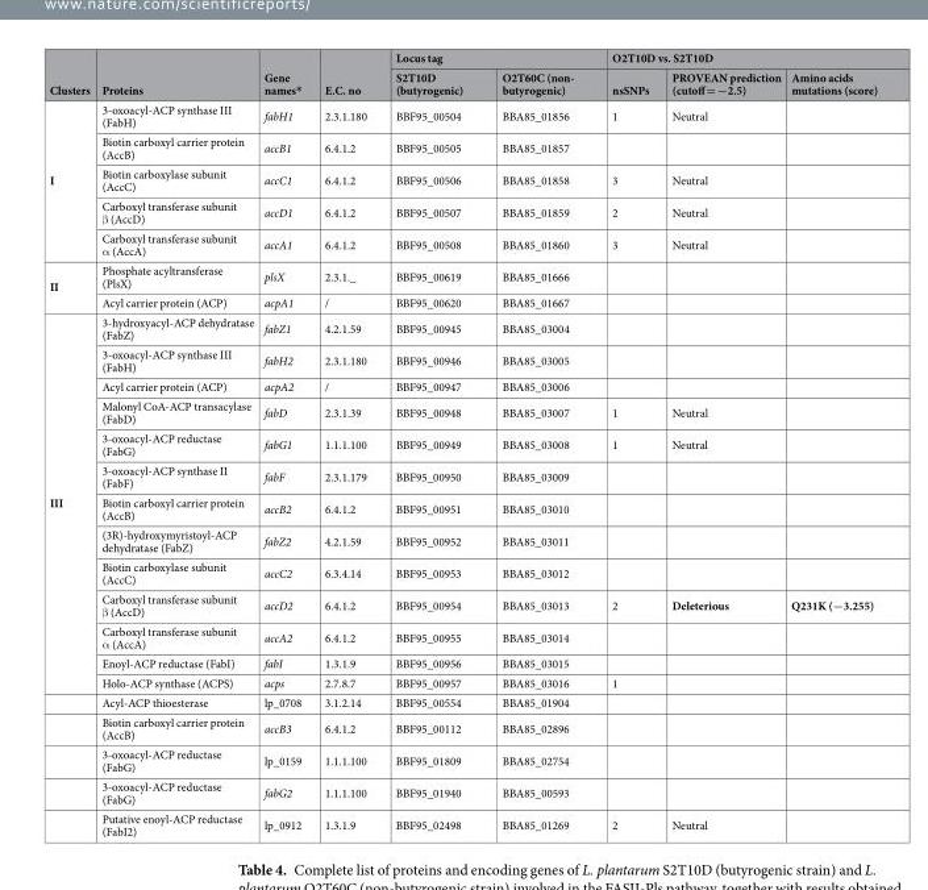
<table><thead><tr><td rowspan="2">Clusters</td><td rowspan="2">Proteins</td><td rowspan="2">Gene names*</td><td rowspan="2">E.C. no</td><td colspan="2">Locus tag</td><td colspan="3">O2T10D vs. S2T10D</td></tr><tr><td>S2T10D (butyrogenic)</td><td>O2T60C (non- butyrogenic)</td><td>nsSNPs</td><td>PROVEAN prediction (cutoff = −2.5)</td><td>Amino acids mutations (score)</td></tr></thead><tbody><tr><td rowspan="5">I</td><td>3-oxoacyl-ACP synthase III (FabH)</td><td>fabH1</td><td>2.3.1.180</td><td>BBF95_00504</td><td>BBA85_01856</td><td>1</td><td>Neutral</td><td></td></tr><tr><td>Biotin carboxyl carrier protein (AccB)</td><td>accB1</td><td>6.4.1.2</td><td>BBF95_00505</td><td>BBA85_01857</td><td></td><td></td><td></td></tr><tr><td>Biotin carboxylase subunit (AccC)</td><td>accC1</td><td>6.4.1.2</td><td>BBF95_00506</td><td>BBA85_01858</td><td>3</td><td>Neutral</td><td></td></tr><tr><td>Carboxyl transferase subunit β (AccD)</td><td>accD1</td><td>6.4.1.2</td><td>BBF95_00507</td><td>BBA85_01859</td><td>2</td><td>Neutral</td><td></td></tr><tr><td>Carboxyl transferase subunit α (AccA)</td><td>accA1</td><td>6.4.1.2</td><td>BBF95_00508</td><td>BBA85_01860</td><td>3</td><td>Neutral</td><td></td></tr><tr><td rowspan="2">II</td><td>Phosphate acyltransferase (PlsX)</td><td>plsX</td><td>2.3.1._</td><td>BBF95_00619</td><td>BBA85_01666</td><td></td><td></td><td></td></tr><tr><td>Acyl carrier protein (ACP)</td><td>acpA1</td><td>/</td><td>BBF95_00620</td><td>BBA85_01667</td><td></td><td></td><td></td></tr><tr><td rowspan="18">III</td><td>3-hydroxyacyl-ACP dehydratase (FabZ)</td><td>fabZ1</td><td>4.2.1.59</td><td>BBF95_00945</td><td>BBA85_03004</td><td></td><td></td><td></td></tr><tr><td>3-oxoacyl-ACP synthase III (FabH)</td><td>fabH2</td><td>2.3.1.180</td><td>BBF95_00946</td><td>BBA85_03005</td><td></td><td></td><td></td></tr><tr><td>Acyl carrier protein (ACP)</td><td>acpA2</td><td>/</td><td>BBF95_00947</td><td>BBA85_03006</td><td></td><td></td><td></td></tr><tr><td>Malonyl CoA-ACP transacylase (FabD)</td><td>fabD</td><td>2.3.1.39</td><td>BBF95_00948</td><td>BBA85_03007</td><td>1</td><td>Neutral</td><td></td></tr><tr><td>3-oxoacyl-ACP reductase (FabG)</td><td>fabG1</td><td>1.1.1.100</td><td>BBF95_00949</td><td>BBA85_03008</td><td>1</td><td>Neutral</td><td></td></tr><tr><td>3-oxoacyl-ACP synthase II (FabF)</td><td>fabF</td><td>2.3.1.179</td><td>BBF95_00950</td><td>BBA85_03009</td><td></td><td></td><td></td></tr><tr><td>Biotin carboxyl carrier protein (AccB)</td><td>accB2</td><td>6.4.1.2</td><td>BBF95_00951</td><td>BBA85_03010</td><td></td><td></td><td></td></tr><tr><td>(3R)-hydroxymyristoyl-ACP dehydratase (FabZ)</td><td>fabZ2</td><td>4.2.1.59</td><td>BBF95_00952</td><td>BBA85_03011</td><td></td><td></td><td></td></tr><tr><td>Biotin carboxylase subunit (AccC)</td><td>accC2</td><td>6.3.4.14</td><td>BBF95_00953</td><td>BBA85_03012</td><td></td><td></td><td></td></tr><tr><td>Carboxyl transferase subunit β (AccD)</td><td>accD2</td><td>6.4.1.2</td><td>BBF95_00954</td><td>BBA85_03013</td><td>2</td><td>Deleterious</td><td>Q231K (−3.255)</td></tr><tr><td>Carboxyl transferase subunit α (AccA)</td><td>accA2</td><td>6.4.1.2</td><td>BBF95_00955</td><td>BBA85_03014</td><td></td><td></td><td></td></tr><tr><td>Enoyl-ACP reductase (FabI)</td><td>fabI</td><td>1.3.1.9</td><td>BBF95_00956</td><td>BBA85_03015</td><td></td><td></td><td></td></tr><tr><td>Holo-ACP synthase (ACPS)</td><td>acps</td><td>2.7.8.7</td><td>BBF95_00957</td><td>BBA85_03016</td><td>1</td><td></td><td></td></tr><tr><td>Acyl-ACP thioesterase</td><td>lp_0708</td><td>3.1.2.14</td><td>BBF95_00554</td><td>BBA85_01904</td><td></td><td></td><td></td></tr><tr><td>Biotin carboxyl carrier protein (AccB)</td><td>accB3</td><td>6.4.1.2</td><td>BBF95_00112</td><td>BBA85_02896</td><td></td><td></td><td></td></tr><tr><td>3-oxoacyl-ACP reductase (FabG)</td><td>lp_0159</td><td>1.1.1.100</td><td>BBF95_01809</td><td>BBA85_02754</td><td></td><td></td><td></td></tr><tr><td>3-oxoacyl-ACP reductase (FabG)</td><td>fabG2</td><td>1.1.1.100</td><td>BBF95_01940</td><td>BBA85_00593</td><td></td><td></td><td></td></tr><tr><td>Putative enoyl-ACP reductase (FabI2)</td><td>lp_0912</td><td>1.3.1.9</td><td>BBF95_02498</td><td>BBA85_01269</td><td>2</td><td>Neutral</td><td></td></tr></tbody></table>